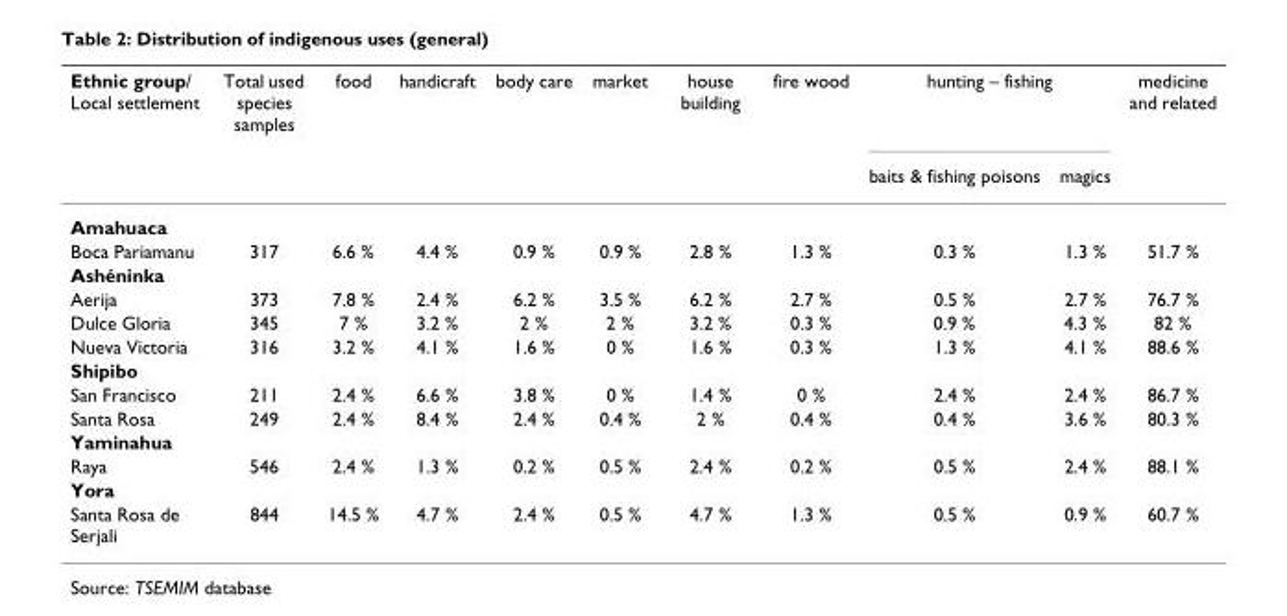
<table><thead><tr><td rowspan="2">Ethnic group/ Local settlement</td><td rowspan="2">Total used species samples</td><td rowspan="2">food</td><td rowspan="2">handicraft</td><td rowspan="2">body care</td><td rowspan="2">market</td><td rowspan="2">house building</td><td rowspan="2">fire wood</td><td colspan="2">hunting – fishing</td><td rowspan="2">medicine and related</td></tr><tr><td>baits &amp; fishing poisons</td><td>magics</td></tr></thead><tbody><tr><td colspan="11">Amahuaca</td></tr><tr><td>Boca Pariamanu</td><td>317</td><td>6.6 %</td><td>4.4 %</td><td>0.9 %</td><td>0.9 %</td><td>2.8 %</td><td>1.3 %</td><td>0.3 %</td><td>1.3 %</td><td>51.7 %</td></tr><tr><td colspan="11">Ashéninka</td></tr><tr><td>Aerija</td><td>373</td><td>7.8 %</td><td>2.4 %</td><td>6.2 %</td><td>3.5 %</td><td>6.2 %</td><td>2.7 %</td><td>0.5 %</td><td>2.7 %</td><td>76.7 %</td></tr><tr><td>Dulce Gloria</td><td>345</td><td>7 %</td><td>3.2 %</td><td>2 %</td><td>2 %</td><td>3.2 %</td><td>0.3 %</td><td>0.9 %</td><td>4.3 %</td><td>82 %</td></tr><tr><td>Nueva Victoria</td><td>316</td><td>3.2 %</td><td>4.1 %</td><td>1.6 %</td><td>0 %</td><td>1.6 %</td><td>0.3 %</td><td>1.3 %</td><td>4.1 %</td><td>88.6 %</td></tr><tr><td colspan="11">Shipibo</td></tr><tr><td>San Francisco</td><td>211</td><td>2.4 %</td><td>6.6 %</td><td>3.8 %</td><td>0 %</td><td>1.4 %</td><td>0 %</td><td>2.4 %</td><td>2.4 %</td><td>86.7 %</td></tr><tr><td>Santa Rosa</td><td>249</td><td>2.4 %</td><td>8.4 %</td><td>2.4 %</td><td>0.4 %</td><td>2 %</td><td>0.4 %</td><td>0.4 %</td><td>3.6 %</td><td>80.3 %</td></tr><tr><td colspan="11">Yaminahua</td></tr><tr><td>Raya</td><td>546</td><td>2.4 %</td><td>1.3 %</td><td>0.2 %</td><td>0.5 %</td><td>2.4 %</td><td>0.2 %</td><td>0.5 %</td><td>2.4 %</td><td>88.1 %</td></tr><tr><td colspan="11">Yora</td></tr><tr><td>Santa Rosa de Serjali</td><td>844</td><td>14.5 %</td><td>4.7 %</td><td>2.4 %</td><td>0.5 %</td><td>4.7 %</td><td>1.3 %</td><td>0.5 %</td><td>0.9 %</td><td>60.7 %</td></tr></tbody></table>